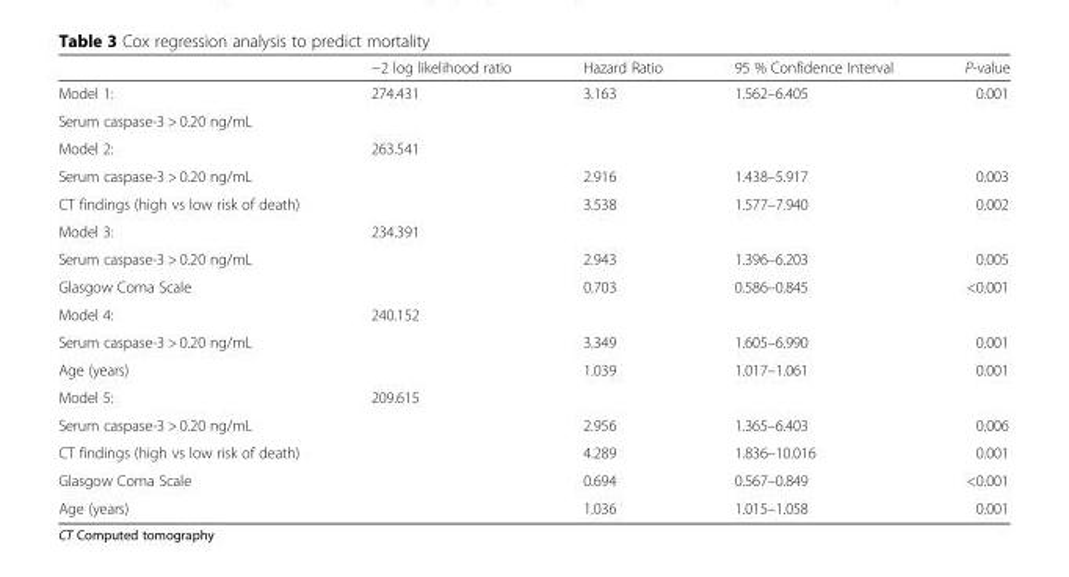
<table><thead><tr><td></td><td>−2 log likelihood ratio</td><td>Hazard Ratio</td><td>95 % Confidence Interval</td><td>P-value</td></tr></thead><tbody><tr><td>Model 1:</td><td>274.431</td><td>3.163</td><td>1.562–6.405</td><td>0.001</td></tr><tr><td colspan="5">Serum caspase-3 &gt; 0.20 ng/mL</td></tr><tr><td>Model 2:</td><td>263.541</td><td></td><td></td><td></td></tr><tr><td>Serum caspase-3 &gt; 0.20 ng/mL</td><td></td><td>2.916</td><td>1.438–5.917</td><td>0.003</td></tr><tr><td>CT findings (high vs low risk of death)</td><td></td><td>3.538</td><td>1.577–7.940</td><td>0.002</td></tr><tr><td>Model 3:</td><td>234.391</td><td></td><td></td><td></td></tr><tr><td>Serum caspase-3 &gt; 0.20 ng/mL</td><td></td><td>2.943</td><td>1.396–6.203</td><td>0.005</td></tr><tr><td>Glasgow Coma Scale</td><td></td><td>0.703</td><td>0.586–0.845</td><td>&lt;0.001</td></tr><tr><td>Model 4:</td><td>240.152</td><td></td><td></td><td></td></tr><tr><td>Serum caspase-3 &gt; 0.20 ng/mL</td><td></td><td>3.349</td><td>1.605–6.990</td><td>0.001</td></tr><tr><td>Age (years)</td><td></td><td>1.039</td><td>1.017–1.061</td><td>0.001</td></tr><tr><td>Model 5:</td><td>209.615</td><td></td><td></td><td></td></tr><tr><td>Serum caspase-3 &gt; 0.20 ng/mL</td><td></td><td>2.956</td><td>1.365–6.403</td><td>0.006</td></tr><tr><td>CT findings (high vs low risk of death)</td><td></td><td>4.289</td><td>1.836–10.016</td><td>0.001</td></tr><tr><td>Glasgow Coma Scale</td><td></td><td>0.694</td><td>0.567–0.849</td><td>&lt;0.001</td></tr><tr><td>Age (years)</td><td></td><td>1.036</td><td>1.015–1.058</td><td>0.001</td></tr></tbody></table>